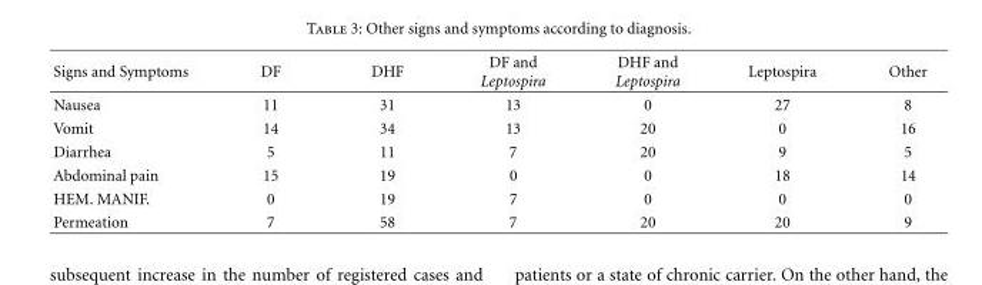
<table><thead><tr><td>Signs and Symptoms</td><td>DF</td><td>DHF</td><td>DF and Leptospira</td><td>DHF and Leptospira</td><td>Leptospira</td><td>Other</td></tr></thead><tbody><tr><td>Nausea</td><td>11</td><td>31</td><td>13</td><td>0</td><td>27</td><td>8</td></tr><tr><td>Vomit</td><td>14</td><td>34</td><td>13</td><td>20</td><td>0</td><td>16</td></tr><tr><td>Diarrhea</td><td>5</td><td>11</td><td>7</td><td>20</td><td>9</td><td>5</td></tr><tr><td>Abdominal pain</td><td>15</td><td>19</td><td>0</td><td>0</td><td>18</td><td>14</td></tr><tr><td>HEM. MANIF.</td><td>0</td><td>19</td><td>7</td><td>0</td><td>0</td><td>0</td></tr><tr><td>Permeation</td><td>7</td><td>58</td><td>7</td><td>20</td><td>20</td><td>9</td></tr></tbody></table>